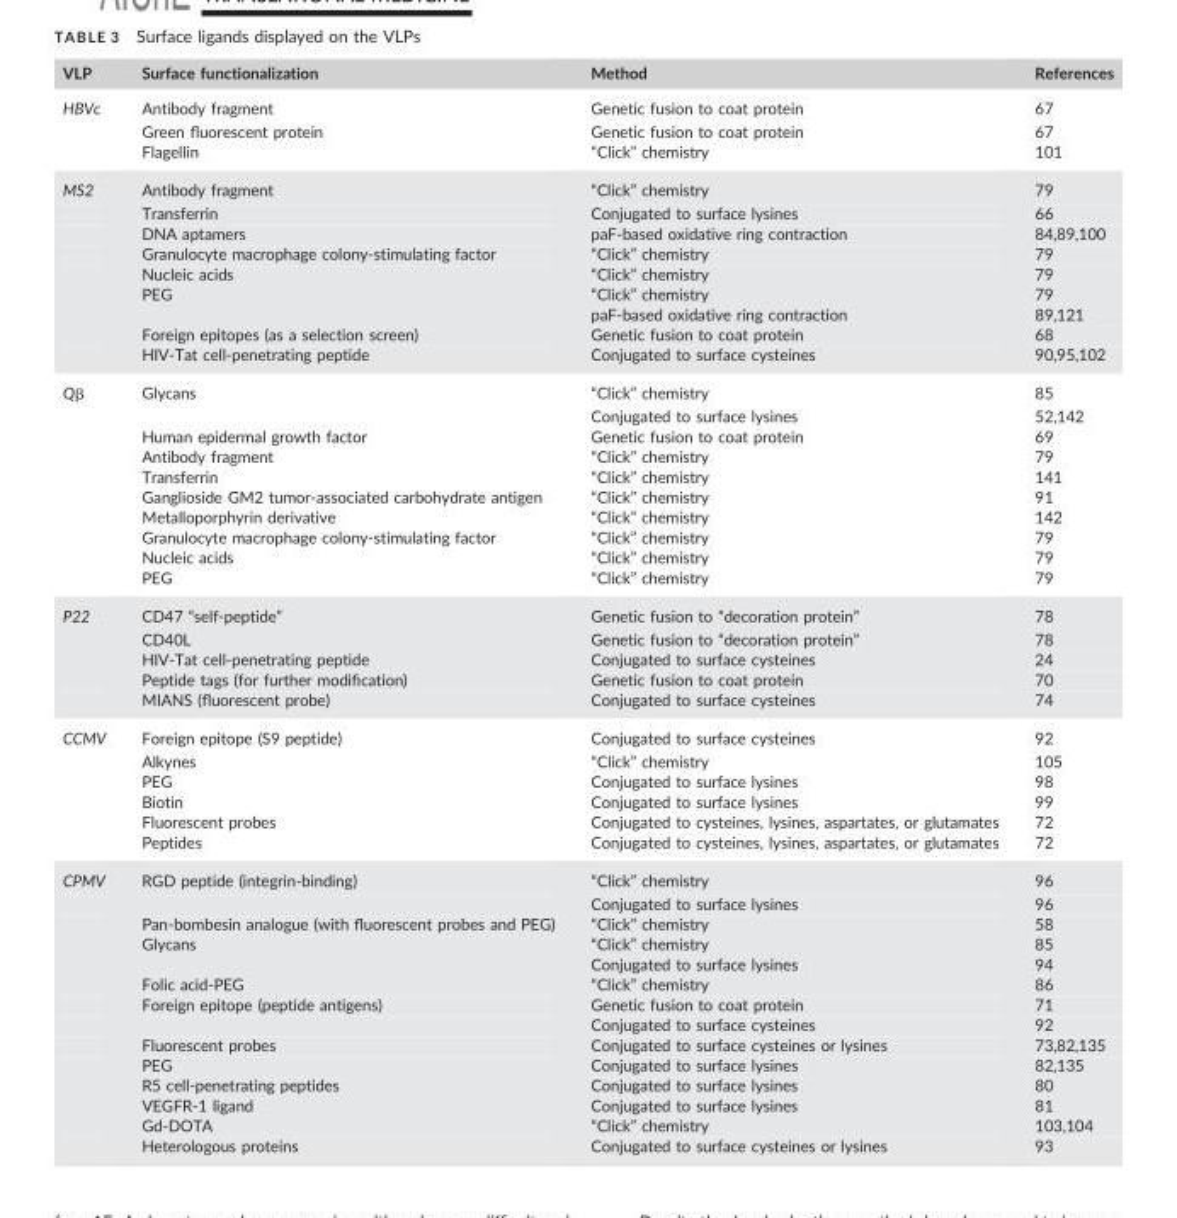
<table><thead><tr><td>VLP</td><td>Surface functionalization</td><td>Method</td><td>References</td></tr></thead><tbody><tr><td rowspan="3">HBVc</td><td>Antibody fragment</td><td>Genetic fusion to coat protein</td><td>67</td></tr><tr><td>Green fluorescent protein</td><td>Genetic fusion to coat protein</td><td>67</td></tr><tr><td>Flagellin</td><td>“Click” chemistry</td><td>101</td></tr><tr><td rowspan="9">MS2</td><td>Antibody fragment</td><td>“Click” chemistry</td><td>79</td></tr><tr><td>Transferrin</td><td>Conjugated to surface lysines</td><td>66</td></tr><tr><td>DNA aptamers</td><td>paF-based oxidative ring contraction</td><td>84,89,100</td></tr><tr><td>Granulocyte macrophage colony-stimulating factor</td><td>“Click” chemistry</td><td>79</td></tr><tr><td>Nucleic acids</td><td>“Click” chemistry</td><td>79</td></tr><tr><td>PEG</td><td>“Click” chemistry</td><td>79</td></tr><tr><td></td><td>paF-based oxidative ring contraction</td><td>89,121</td></tr><tr><td>Foreign epitopes (as a selection screen)</td><td>Genetic fusion to coat protein</td><td>68</td></tr><tr><td>HIV-Tat cell-penetrating peptide</td><td>Conjugated to surface cysteines</td><td>90,95,102</td></tr><tr><td rowspan="10">Qβ</td><td>Glycans</td><td>“Click” chemistry</td><td>85</td></tr><tr><td></td><td>Conjugated to surface lysines</td><td>52,142</td></tr><tr><td>Human epidermal growth factor</td><td>Genetic fusion to coat protein</td><td>69</td></tr><tr><td>Antibody fragment</td><td>“Click” chemistry</td><td>79</td></tr><tr><td>Transferrin</td><td>“Click” chemistry</td><td>141</td></tr><tr><td>Ganglioside GM2 tumor-associated carbohydrate antigen</td><td>“Click” chemistry</td><td>91</td></tr><tr><td>Metalloporphyrin derivative</td><td>“Click” chemistry</td><td>142</td></tr><tr><td>Granulocyte macrophage colony-stimulating factor</td><td>“Click” chemistry</td><td>79</td></tr><tr><td>Nucleic acids</td><td>“Click” chemistry</td><td>79</td></tr><tr><td>PEG</td><td>“Click” chemistry</td><td>79</td></tr><tr><td rowspan="5">P22</td><td>CD47 “self-peptide”</td><td>Genetic fusion to “decoration protein”</td><td>78</td></tr><tr><td>CD40L</td><td>Genetic fusion to “decoration protein”</td><td>78</td></tr><tr><td>HIV-Tat cell-penetrating peptide</td><td>Conjugated to surface cysteines</td><td>24</td></tr><tr><td>Peptide tags (for further modification)</td><td>Genetic fusion to coat protein</td><td>70</td></tr><tr><td>MIANS (fluorescent probe)</td><td>Conjugated to surface cysteines</td><td>74</td></tr><tr><td rowspan="6">CCMV</td><td>Foreign epitope (S9 peptide)</td><td>Conjugated to surface cysteines</td><td>92</td></tr><tr><td>Alkynes</td><td>“Click” chemistry</td><td>105</td></tr><tr><td>PEG</td><td>Conjugated to surface lysines</td><td>98</td></tr><tr><td>Biotin</td><td>Conjugated to surface lysines</td><td>99</td></tr><tr><td>Fluorescent probes</td><td>Conjugated to cysteines, lysines, aspartates, or glutamates</td><td>72</td></tr><tr><td>Peptides</td><td>Conjugated to cysteines, lysines, aspartates, or glutamates</td><td>72</td></tr><tr><td rowspan="14">CPMV</td><td>RGD peptide (integrin-binding)</td><td>“Click” chemistry</td><td>96</td></tr><tr><td></td><td>Conjugated to surface lysines</td><td>96</td></tr><tr><td>Pan-bombesin analogue (with fluorescent probes and PEG)</td><td>“Click” chemistry</td><td>58</td></tr><tr><td>Glycans</td><td>“Click” chemistry</td><td>85</td></tr><tr><td></td><td>Conjugated to surface lysines</td><td>94</td></tr><tr><td>Folic acid-PEG</td><td>“Click” chemistry</td><td>86</td></tr><tr><td>Foreign epitope (peptide antigens)</td><td>Genetic fusion to coat protein</td><td>71</td></tr><tr><td></td><td>Conjugated to surface cysteines</td><td>92</td></tr><tr><td>Fluorescent probes</td><td>Conjugated to surface cysteines or lysines</td><td>73,82,135</td></tr><tr><td>PEG</td><td>Conjugated to surface lysines</td><td>82,135</td></tr><tr><td>R5 cell-penetrating peptides</td><td>Conjugated to surface lysines</td><td>80</td></tr><tr><td>VEGFR-1 ligand</td><td>Conjugated to surface lysines</td><td>81</td></tr><tr><td>Gd-DOTA</td><td>“Click” chemistry</td><td>103,104</td></tr><tr><td>Heterologous proteins</td><td>Conjugated to surface cysteines or lysines</td><td>93</td></tr></tbody></table>